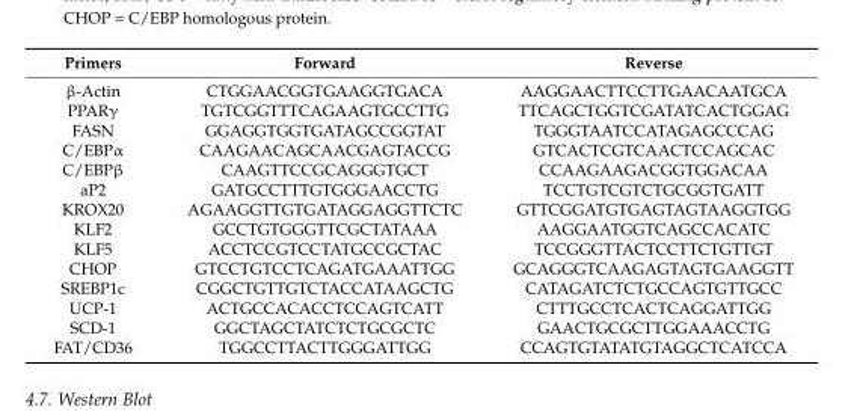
<table><thead><tr><td>Primers</td><td>Forward</td><td>Reverse</td></tr></thead><tbody><tr><td>β-Actin</td><td>CTGGAACGGTGAAGGTGACA</td><td>AAGGAACTTCCTTGAACAATGCA</td></tr><tr><td>PPARγ</td><td>TGTCGGTTTCAGAAGTGCCTTG</td><td>TTCAGCTGGTCGATATCACTGGAG</td></tr><tr><td>FASN</td><td>GGAGGTGGTGATAGCCGGTAT</td><td>TGGGTAATCCATAGAGCCCAG</td></tr><tr><td>C/EBPα</td><td>CAAGAACAGCAACGAGTACCG</td><td>GTCACTCGTCAACTCCAGCAC</td></tr><tr><td>C/EBPβ</td><td>CAAGTTCCGCAGGGTGCT</td><td>CCAAGAAGACGGTGGACAA</td></tr><tr><td>aP2</td><td>GATGCCTTTGTGGGAACCTG</td><td>TCCTGTCGTCTGCGGTGATT</td></tr><tr><td>KROX20</td><td>AGAAGGTTGTGATAGGAGGTTCTC</td><td>GTTCGGATGTGAGTAGTAAGGTGG</td></tr><tr><td>KLF2</td><td>GCCTGTGGGTTCGCTATAAA</td><td>AAGGAATGGTCAGCCACATC</td></tr><tr><td>KLF5</td><td>ACCTCCGTCCTATGCCGCTAC</td><td>TCCGGGTTACTCCTTCTGTTGT</td></tr><tr><td>CHOP</td><td>GTCCTGTCCTCAGATGAAATTGG</td><td>GCAGGGTCAAGAGTAGTGAAGGTT</td></tr><tr><td>SREBP1c</td><td>CGGCTGTTGTCTACCATAAGCTG</td><td>CATAGATCTCTGCCAGTGTTGCC</td></tr><tr><td>UCP-1</td><td>ACTGCCACACCTCCAGTCATT</td><td>CTTTGCCTCACTCAGGATTGG</td></tr><tr><td>SCD-1</td><td>GGCTAGCTATCTCTGCGCTC</td><td>GAACTGCGCTTGGAAACCTG</td></tr><tr><td>FAT/CD36</td><td>TGGCCTTACTTGGGATTGG</td><td>CCAGTGTATATGTAGGCTCATCCA</td></tr></tbody></table>